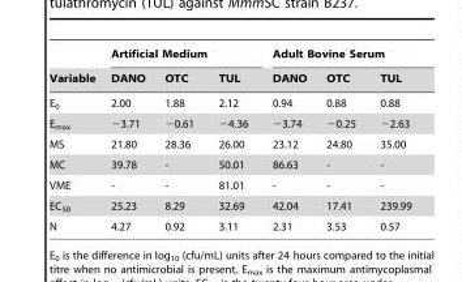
<table><thead><tr><td rowspan="2">Variable</td><td colspan="3">Artificial Medium</td><td colspan="3">Adult Bovine Serum</td></tr><tr><td>DANO</td><td>OTC</td><td>TUL</td><td>DANO</td><td>OTC</td><td>TUL</td></tr></thead><tbody><tr><td>E<sub>0</sub></td><td>2.00</td><td>1.88</td><td>2.12</td><td>0.94</td><td>0.88</td><td>0.88</td></tr><tr><td>E<sub>max</sub></td><td>−3.71</td><td>−0.61</td><td>−4.36</td><td>−3.74</td><td>−0.25</td><td>−2.63</td></tr><tr><td>MS</td><td>21.80</td><td>28.36</td><td>26.00</td><td>23.12</td><td>24.80</td><td>35.00</td></tr><tr><td>MC</td><td>39.78</td><td>-</td><td>50.01</td><td>86.63</td><td>-</td><td>-</td></tr><tr><td>VME</td><td>-</td><td>-</td><td>81.01</td><td>-</td><td>-</td><td>-</td></tr><tr><td>EC<sub>50</sub></td><td>25.23</td><td>8.29</td><td>32.69</td><td>42.04</td><td>17.41</td><td>239.99</td></tr><tr><td>N</td><td>4.27</td><td>0.92</td><td>3.11</td><td>2.31</td><td>3.53</td><td>0.57</td></tr></tbody></table>